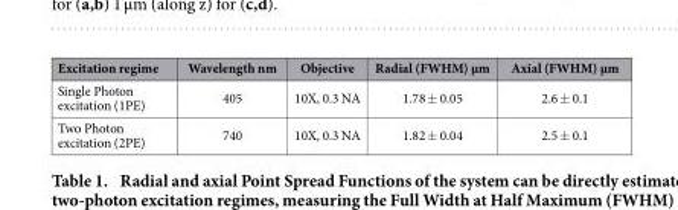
<table><thead><tr><td>Excitation regime</td><td>Wavelength nm</td><td>Objective</td><td>Radial (FWHM) μm</td><td>Axial (FWHM) μm</td></tr></thead><tbody><tr><td>Single Photon excitation (1PE)</td><td>405</td><td>10X, 0.3 NA</td><td>1.78 ± 0.05</td><td>2.6 ± 0.1</td></tr><tr><td>Two Photon excitation (2PE)</td><td>740</td><td>10X, 0.3 NA</td><td>1.82 ± 0.04</td><td>2.5 ± 0.1</td></tr></tbody></table>